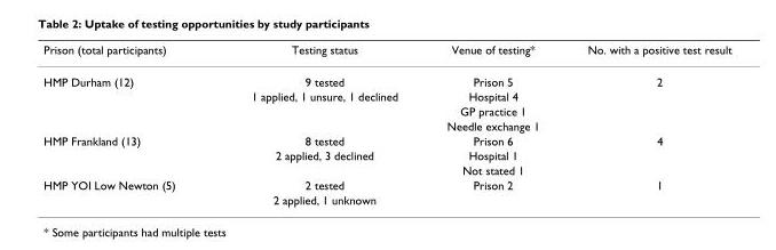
<table><thead><tr><td>Prison (total participants)</td><td>Testing status</td><td>Venue of testing*</td><td>No. with a positive test result</td></tr></thead><tbody><tr><td rowspan="4">HMP Durham (12)</td><td>9 tested</td><td>Prison 5</td><td>2</td></tr><tr><td>1 applied, 1 unsure, 1 declined</td><td>Hospital 4</td><td></td></tr><tr><td></td><td>GP practice 1</td><td></td></tr><tr><td></td><td>Needle exchange 1</td><td></td></tr><tr><td rowspan="3">HMP Frankland (13)</td><td>8 tested</td><td>Prison 6</td><td>4</td></tr><tr><td>2 applied, 3 declined</td><td>Hospital 1</td><td></td></tr><tr><td></td><td>Not stated 1</td><td></td></tr><tr><td rowspan="2">HMP YOI Low Newton (5)</td><td>2 tested</td><td>Prison 2</td><td>1</td></tr><tr><td>2 applied, 1 unknown</td><td></td><td></td></tr></tbody></table>